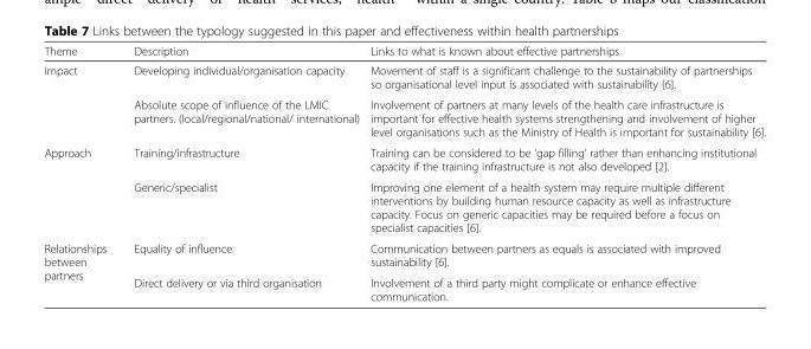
<table><thead><tr><td>Theme</td><td>Description</td><td>Links to what is known about effective partnerships</td></tr></thead><tbody><tr><td rowspan="2">Impact</td><td>Developing individual/organisation capacity</td><td>Movement of staff is a significant challenge to the sustainability of partnerships so organisational level input is associated with sustainability [6].</td></tr><tr><td>Absolute scope of influence of the LMIC partners. (local/regional/national/ international)</td><td>Involvement of partners at many levels of the health care infrastructure is important for effective health systems strengthening and involvement of higher level organisations such as the Ministry of Health is important for sustainability [6].</td></tr><tr><td rowspan="2">Approach</td><td>Training/infrastructure</td><td>Training can be considered to be ‘gap filling’ rather than enhancing institutional capacity if the training infrastructure is not also developed [2].</td></tr><tr><td>Generic/specialist</td><td>Improving one element of a health system may require multiple different interventions by building human resource capacity as well as infrastructure capacity. Focus on generic capacities may be required before a focus on specialist capacities [6].</td></tr><tr><td rowspan="2">Relationships between partners</td><td>Equality of influence</td><td>Communication between partners as equals is associated with improved sustainability [6].</td></tr><tr><td>Direct delivery or via third organisation</td><td>Involvement of a third party might complicate or enhance effective communication.</td></tr></tbody></table>